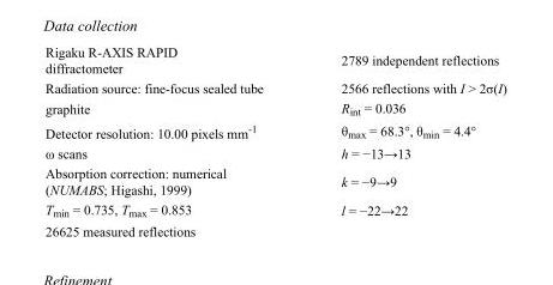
<table><tbody><tr><td>Rigaku R-AXIS RAPID diffractometer</td><td>2789 independent reflections</td></tr><tr><td>Radiation source: fine-focus sealed tube</td><td>2566 reflections with I &gt; 2σ(I)</td></tr><tr><td>graphite</td><td>R<sub>int</sub> = 0.036</td></tr><tr><td>Detector resolution: 10.00 pixels mm<sup>-1</sup></td><td>θ<sub>max</sub> = 68.3°, θ<sub>min</sub> = 4.4°</td></tr><tr><td>ω scans</td><td>h = −13→13</td></tr><tr><td>Absorption correction: numerical (NUMABS; Higashi, 1999)</td><td>k = −9→9</td></tr><tr><td>T<sub>min</sub> = 0.735, T<sub>max</sub> = 0.853</td><td>l = −22→22</td></tr><tr><td>26625 measured reflections</td><td></td></tr></tbody></table>